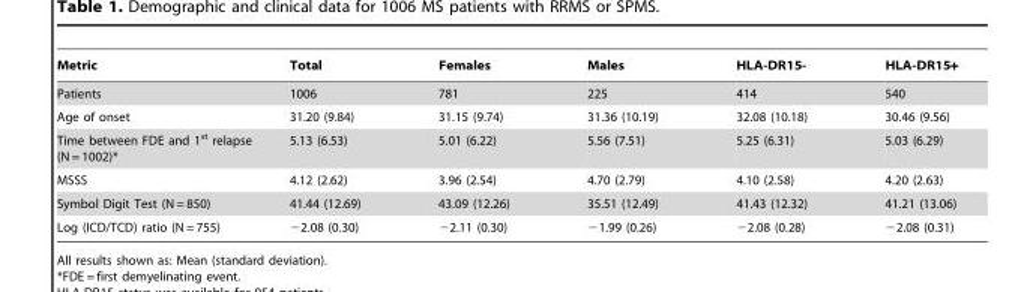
<table><thead><tr><td>Metric</td><td>Total</td><td>Females</td><td>Males</td><td>HLA-DR15-</td><td>HLA-DR15+</td></tr></thead><tbody><tr><td>Patients</td><td>1006</td><td>781</td><td>225</td><td>414</td><td>540</td></tr><tr><td>Age of onset</td><td>31.20 (9.84)</td><td>31.15 (9.74)</td><td>31.36 (10.19)</td><td>32.08 (10.18)</td><td>30.46 (9.56)</td></tr><tr><td>Time between FDE and 1<sup>st</sup> relapse (N = 1002)*</td><td>5.13 (6.53)</td><td>5.01 (6.22)</td><td>5.56 (7.51)</td><td>5.25 (6.31)</td><td>5.03 (6.29)</td></tr><tr><td>MSSS</td><td>4.12 (2.62)</td><td>3.96 (2.54)</td><td>4.70 (2.79)</td><td>4.10 (2.58)</td><td>4.20 (2.63)</td></tr><tr><td>Symbol Digit Test (N = 850)</td><td>41.44 (12.69)</td><td>43.09 (12.26)</td><td>35.51 (12.49)</td><td>41.43 (12.32)</td><td>41.21 (13.06)</td></tr><tr><td>Log (ICD/TCD) ratio (N = 755)</td><td>−2.08 (0.30)</td><td>−2.11 (0.30)</td><td>−1.99 (0.26)</td><td>−2.08 (0.28)</td><td>−2.08 (0.31)</td></tr></tbody></table>